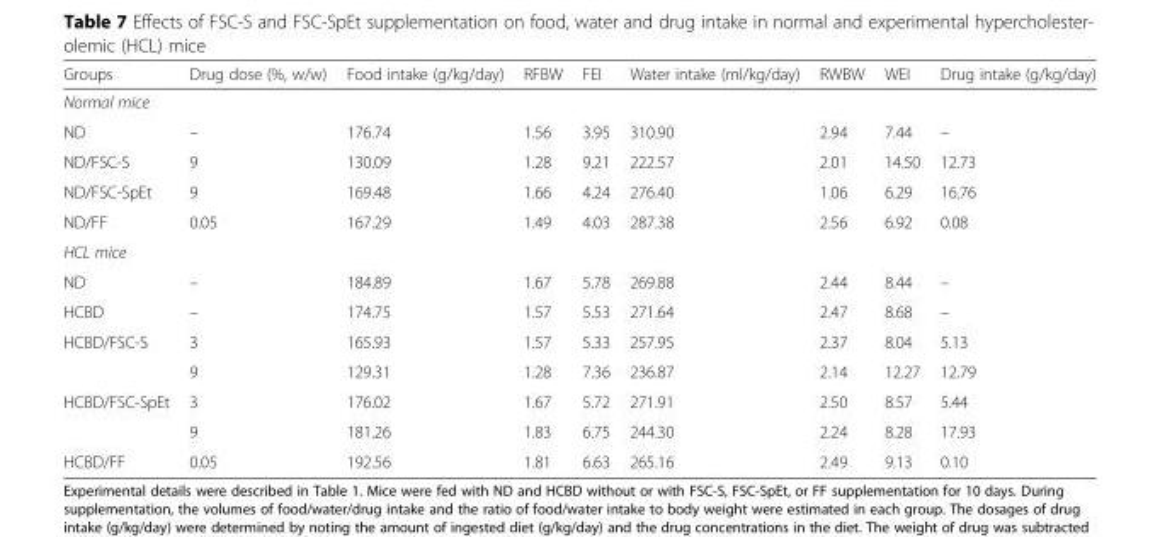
<table><thead><tr><td>Groups</td><td>Drug dose (%, w/w)</td><td>Food intake (g/kg/day)</td><td>RFBW</td><td>FEI</td><td>Water intake (ml/kg/day)</td><td>RWBW</td><td>WEI</td><td>Drug intake (g/kg/day)</td></tr></thead><tbody><tr><td colspan="9">Normal mice</td></tr><tr><td>ND</td><td>–</td><td>176.74</td><td>1.56</td><td>3.95</td><td>310.90</td><td>2.94</td><td>7.44</td><td>–</td></tr><tr><td>ND/FSC-S</td><td>9</td><td>130.09</td><td>1.28</td><td>9.21</td><td>222.57</td><td>2.01</td><td>14.50</td><td>12.73</td></tr><tr><td>ND/FSC-SpEt</td><td>9</td><td>169.48</td><td>1.66</td><td>4.24</td><td>276.40</td><td>1.06</td><td>6.29</td><td>16.76</td></tr><tr><td>ND/FF</td><td>0.05</td><td>167.29</td><td>1.49</td><td>4.03</td><td>287.38</td><td>2.56</td><td>6.92</td><td>0.08</td></tr><tr><td colspan="9">HCL mice</td></tr><tr><td>ND</td><td>–</td><td>184.89</td><td>1.67</td><td>5.78</td><td>269.88</td><td>2.44</td><td>8.44</td><td>–</td></tr><tr><td>HCBD</td><td>–</td><td>174.75</td><td>1.57</td><td>5.53</td><td>271.64</td><td>2.47</td><td>8.68</td><td>–</td></tr><tr><td rowspan="2">HCBD/FSC-S</td><td>3</td><td>165.93</td><td>1.57</td><td>5.33</td><td>257.95</td><td>2.37</td><td>8.04</td><td>5.13</td></tr><tr><td>9</td><td>129.31</td><td>1.28</td><td>7.36</td><td>236.87</td><td>2.14</td><td>12.27</td><td>12.79</td></tr><tr><td rowspan="2">HCBD/FSC-SpEt</td><td>3</td><td>176.02</td><td>1.67</td><td>5.72</td><td>271.91</td><td>2.50</td><td>8.57</td><td>5.44</td></tr><tr><td>9</td><td>181.26</td><td>1.83</td><td>6.75</td><td>244.30</td><td>2.24</td><td>8.28</td><td>17.93</td></tr><tr><td>HCBD/FF</td><td>0.05</td><td>192.56</td><td>1.81</td><td>6.63</td><td>265.16</td><td>2.49</td><td>9.13</td><td>0.10</td></tr></tbody></table>